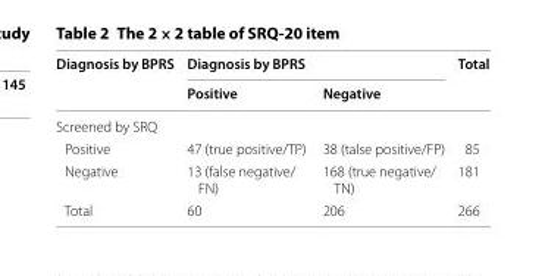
<table><thead><tr><td rowspan="2">Diagnosis by BPRS</td><td colspan="2">Diagnosis by BPRS</td><td rowspan="2">Total</td></tr><tr><td>Positive</td><td>Negative</td></tr></thead><tbody><tr><td colspan="4">Screened by SRQ</td></tr><tr><td>Positive</td><td>47 (true positive/TP)</td><td>38 (talse positive/FP)</td><td>85</td></tr><tr><td>Negative</td><td>13 (false negative/ FN)</td><td>168 (true negative/ TN)</td><td>181</td></tr><tr><td>Total</td><td>60</td><td>206</td><td>266</td></tr></tbody></table>